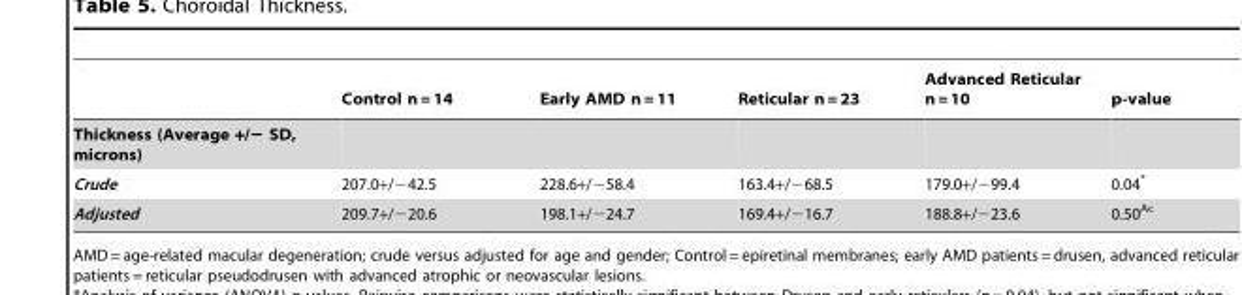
<table><thead><tr><td></td><td>Control n = 14</td><td>Early AMD n = 11</td><td>Reticular n = 23</td><td>Advanced Reticular n = 10</td><td>p-value</td></tr></thead><tbody><tr><td colspan="6">Thickness (Average +/− SD, microns)</td></tr><tr><td>Crude</td><td>207.0+/−42.5</td><td>228.6+/−58.4</td><td>163.4+/−68.5</td><td>179.0+/−99.4</td><td>0.04*</td></tr><tr><td>Adjusted</td><td>209.7+/−20.6</td><td>198.1+/−24.7</td><td>169.4+/−16.7</td><td>188.8+/−23.6</td><td>0.50<sup>Ac</sup></td></tr></tbody></table>